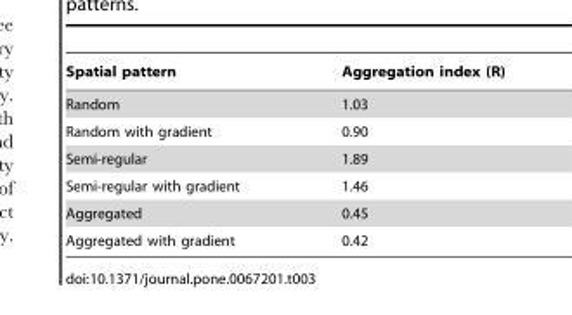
<table><thead><tr><td>Spatial pattern</td><td>Aggregation index (R)</td></tr></thead><tbody><tr><td>Random</td><td>1.03</td></tr><tr><td>Random with gradient</td><td>0.90</td></tr><tr><td>Semi-regular</td><td>1.89</td></tr><tr><td>Semi-regular with gradient</td><td>1.46</td></tr><tr><td>Aggregated</td><td>0.45</td></tr><tr><td>Aggregated with gradient</td><td>0.42</td></tr></tbody></table>